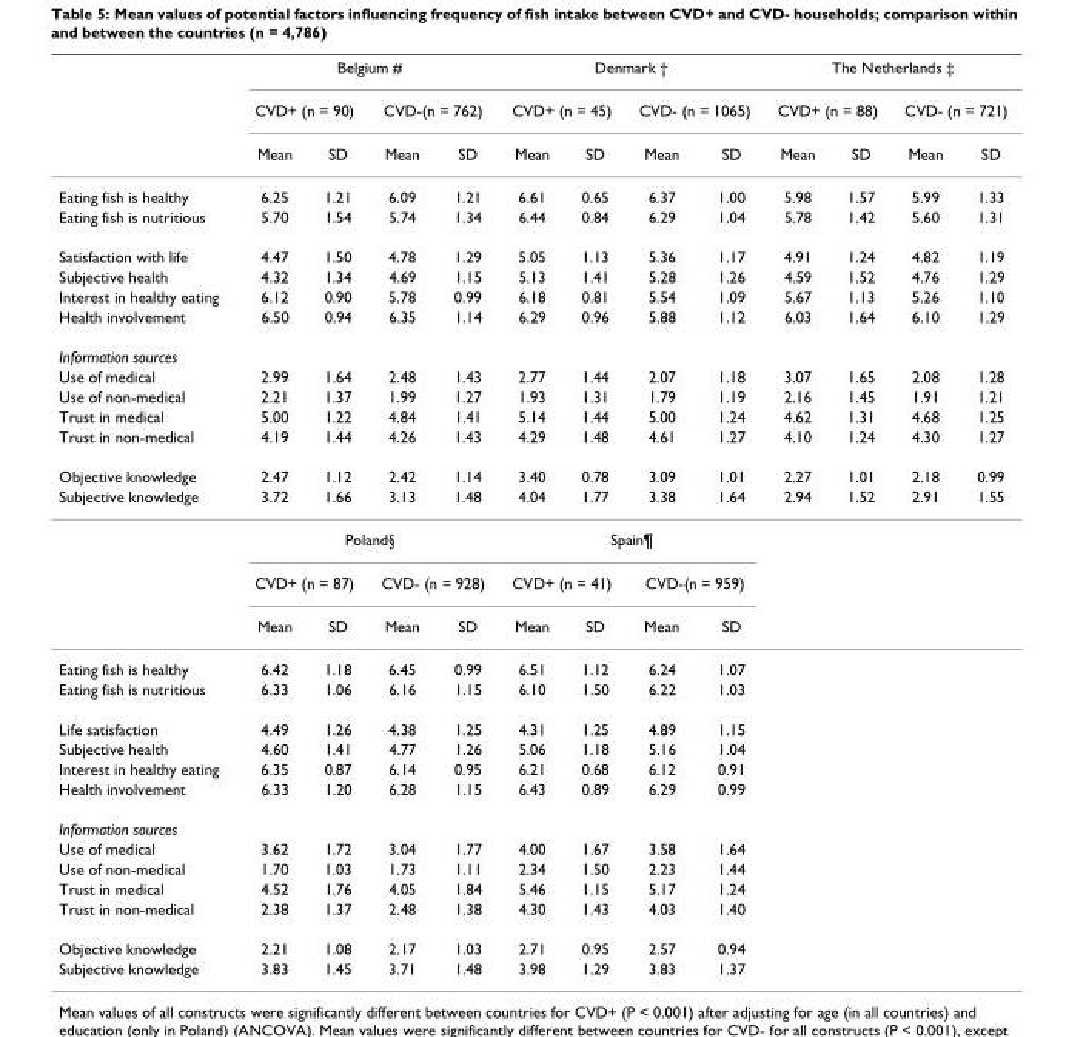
<table><thead><tr><td rowspan="3"></td><td colspan="4">Belgium #</td><td colspan="4">Denmark †</td><td colspan="4">The Netherlands ‡</td></tr><tr><td colspan="2">CVD+ (n = 90)</td><td colspan="2">CVD-(n = 762)</td><td colspan="2">CVD+ (n = 45)</td><td colspan="2">CVD- (n = 1065)</td><td colspan="2">CVD+ (n = 88)</td><td colspan="2">CVD- (n = 721)</td></tr><tr><td>Mean</td><td>SD</td><td>Mean</td><td>SD</td><td>Mean</td><td>SD</td><td>Mean</td><td>SD</td><td>Mean</td><td>SD</td><td>Mean</td><td>SD</td></tr></thead><tbody><tr><td>Eating fish is healthy</td><td>6.25</td><td>1.21</td><td>6.09</td><td>1.21</td><td>6.61</td><td>0.65</td><td>6.37</td><td>1.00</td><td>5.98</td><td>1.57</td><td>5.99</td><td>1.33</td></tr><tr><td>Eating fish is nutritious</td><td>5.70</td><td>1.54</td><td>5.74</td><td>1.34</td><td>6.44</td><td>0.84</td><td>6.29</td><td>1.04</td><td>5.78</td><td>1.42</td><td>5.60</td><td>1.31</td></tr><tr><td>Satisfaction with life</td><td>4.47</td><td>1.50</td><td>4.78</td><td>1.29</td><td>5.05</td><td>1.13</td><td>5.36</td><td>1.17</td><td>4.91</td><td>1.24</td><td>4.82</td><td>1.19</td></tr><tr><td>Subjective health</td><td>4.32</td><td>1.34</td><td>4.69</td><td>1.15</td><td>5.13</td><td>1.41</td><td>5.28</td><td>1.26</td><td>4.59</td><td>1.52</td><td>4.76</td><td>1.29</td></tr><tr><td>Interest in healthy eating</td><td>6.12</td><td>0.90</td><td>5.78</td><td>0.99</td><td>6.18</td><td>0.81</td><td>5.54</td><td>1.09</td><td>5.67</td><td>1.13</td><td>5.26</td><td>1.10</td></tr><tr><td>Health involvement</td><td>6.50</td><td>0.94</td><td>6.35</td><td>1.14</td><td>6.29</td><td>0.96</td><td>5.88</td><td>1.12</td><td>6.03</td><td>1.64</td><td>6.10</td><td>1.29</td></tr><tr><td colspan="13">Information sources</td></tr><tr><td>Use of medical</td><td>2.99</td><td>1.64</td><td>2.48</td><td>1.43</td><td>2.77</td><td>1.44</td><td>2.07</td><td>1.18</td><td>3.07</td><td>1.65</td><td>2.08</td><td>1.28</td></tr><tr><td>Use of non-medical</td><td>2.21</td><td>1.37</td><td>1.99</td><td>1.27</td><td>1.93</td><td>1.31</td><td>1.79</td><td>1.19</td><td>2.16</td><td>1.45</td><td>1.91</td><td>1.21</td></tr><tr><td>Trust in medical</td><td>5.00</td><td>1.22</td><td>4.84</td><td>1.41</td><td>5.14</td><td>1.44</td><td>5.00</td><td>1.24</td><td>4.62</td><td>1.31</td><td>4.68</td><td>1.25</td></tr><tr><td>Trust in non-medical</td><td>4.19</td><td>1.44</td><td>4.26</td><td>1.43</td><td>4.29</td><td>1.48</td><td>4.61</td><td>1.27</td><td>4.10</td><td>1.24</td><td>4.30</td><td>1.27</td></tr><tr><td>Objective knowledge</td><td>2.47</td><td>1.12</td><td>2.42</td><td>1.14</td><td>3.40</td><td>0.78</td><td>3.09</td><td>1.01</td><td>2.27</td><td>1.01</td><td>2.18</td><td>0.99</td></tr><tr><td rowspan="4">Subjective knowledge</td><td>3.72</td><td>1.66</td><td>3.13</td><td>1.48</td><td>4.04</td><td>1.77</td><td>3.38</td><td>1.64</td><td>2.94</td><td>1.52</td><td>2.91</td><td>1.55</td></tr><tr><td colspan="4">Poland§</td><td colspan="4">Spain¶</td><td></td><td></td><td></td><td></td></tr><tr><td colspan="2">CVD+ (n = 87)</td><td colspan="2">CVD- (n = 928)</td><td colspan="2">CVD+ (n = 41)</td><td colspan="2">CVD-(n = 959)</td><td></td><td></td><td></td><td></td></tr><tr><td>Mean</td><td>SD</td><td>Mean</td><td>SD</td><td>Mean</td><td>SD</td><td>Mean</td><td>SD</td><td></td><td></td><td></td><td></td></tr><tr><td>Eating fish is healthy</td><td>6.42</td><td>1.18</td><td>6.45</td><td>0.99</td><td>6.51</td><td>1.12</td><td>6.24</td><td>1.07</td><td></td><td></td><td></td><td></td></tr><tr><td>Eating fish is nutritious</td><td>6.33</td><td>1.06</td><td>6.16</td><td>1.15</td><td>6.10</td><td>1.50</td><td>6.22</td><td>1.03</td><td></td><td></td><td></td><td></td></tr><tr><td>Life satisfaction</td><td>4.49</td><td>1.26</td><td>4.38</td><td>1.25</td><td>4.31</td><td>1.25</td><td>4.89</td><td>1.15</td><td></td><td></td><td></td><td></td></tr><tr><td>Subjective health</td><td>4.60</td><td>1.41</td><td>4.77</td><td>1.26</td><td>5.06</td><td>1.18</td><td>5.16</td><td>1.04</td><td></td><td></td><td></td><td></td></tr><tr><td>Interest in healthy eating</td><td>6.35</td><td>0.87</td><td>6.14</td><td>0.95</td><td>6.21</td><td>0.68</td><td>6.12</td><td>0.91</td><td></td><td></td><td></td><td></td></tr><tr><td>Health involvement</td><td>6.33</td><td>1.20</td><td>6.28</td><td>1.15</td><td>6.43</td><td>0.89</td><td>6.29</td><td>0.99</td><td></td><td></td><td></td><td></td></tr><tr><td colspan="13">Information sources</td></tr><tr><td>Use of medical</td><td>3.62</td><td>1.72</td><td>3.04</td><td>1.77</td><td>4.00</td><td>1.67</td><td>3.58</td><td>1.64</td><td></td><td></td><td></td><td></td></tr><tr><td>Use of non-medical</td><td>1.70</td><td>1.03</td><td>1.73</td><td>1.11</td><td>2.34</td><td>1.50</td><td>2.23</td><td>1.44</td><td></td><td></td><td></td><td></td></tr><tr><td>Trust in medical</td><td>4.52</td><td>1.76</td><td>4.05</td><td>1.84</td><td>5.46</td><td>1.15</td><td>5.17</td><td>1.24</td><td></td><td></td><td></td><td></td></tr><tr><td>Trust in non-medical</td><td>2.38</td><td>1.37</td><td>2.48</td><td>1.38</td><td>4.30</td><td>1.43</td><td>4.03</td><td>1.40</td><td></td><td></td><td></td><td></td></tr><tr><td>Objective knowledge</td><td>2.21</td><td>1.08</td><td>2.17</td><td>1.03</td><td>2.71</td><td>0.95</td><td>2.57</td><td>0.94</td><td></td><td></td><td></td><td></td></tr><tr><td>Subjective knowledge</td><td>3.83</td><td>1.45</td><td>3.71</td><td>1.48</td><td>3.98</td><td>1.29</td><td>3.83</td><td>1.37</td><td></td><td></td><td></td><td></td></tr></tbody></table>